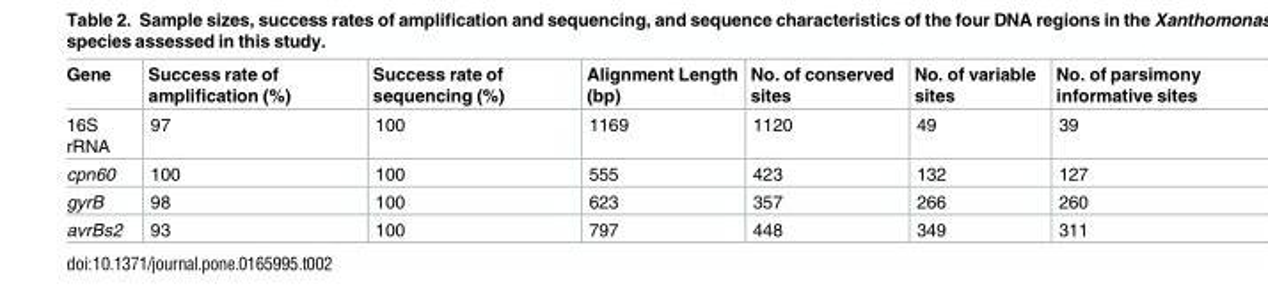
<table><thead><tr><td>Gene</td><td>Success rate of amplification (%)</td><td>Success rate of sequencing (%)</td><td>Alignment Length (bp)</td><td>No. of conserved sites</td><td>No. of variable sites</td><td>No. of parsimony informative sites</td></tr></thead><tbody><tr><td>16S rRNA</td><td>97</td><td>100</td><td>1169</td><td>1120</td><td>49</td><td>39</td></tr><tr><td>cpn60</td><td>100</td><td>100</td><td>555</td><td>423</td><td>132</td><td>127</td></tr><tr><td>gyrB</td><td>98</td><td>100</td><td>623</td><td>357</td><td>266</td><td>260</td></tr><tr><td>avrBs2</td><td>93</td><td>100</td><td>797</td><td>448</td><td>349</td><td>311</td></tr></tbody></table>